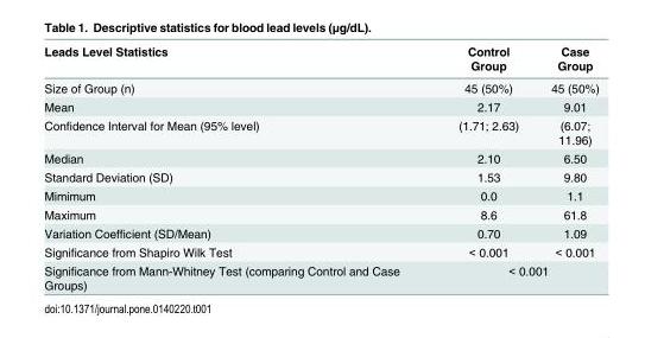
<table><thead><tr><td>Leads Level Statistics</td><td>Control Group</td><td>Case Group</td></tr></thead><tbody><tr><td>Size of Group (n)</td><td>45 (50%)</td><td>45 (50%)</td></tr><tr><td>Mean</td><td>2.17</td><td>9.01</td></tr><tr><td>Confidence Interval for Mean (95% level)</td><td>(1.71; 2.63)</td><td>(6.07; 11.96)</td></tr><tr><td>Median</td><td>2.10</td><td>6.50</td></tr><tr><td>Standard Deviation (SD)</td><td>1.53</td><td>9.80</td></tr><tr><td>Mimimum</td><td>0.0</td><td>1.1</td></tr><tr><td>Maximum</td><td>8.6</td><td>61.8</td></tr><tr><td>Variation Coefficient (SD/Mean)</td><td>0.70</td><td>1.09</td></tr><tr><td>Significance from Shapiro Wilk Test</td><td>&lt; 0.001</td><td>&lt; 0.001</td></tr><tr><td>Significance from Mann-Whitney Test (comparing Control and Case Groups)</td><td colspan="2">&lt; 0.001</td></tr></tbody></table>